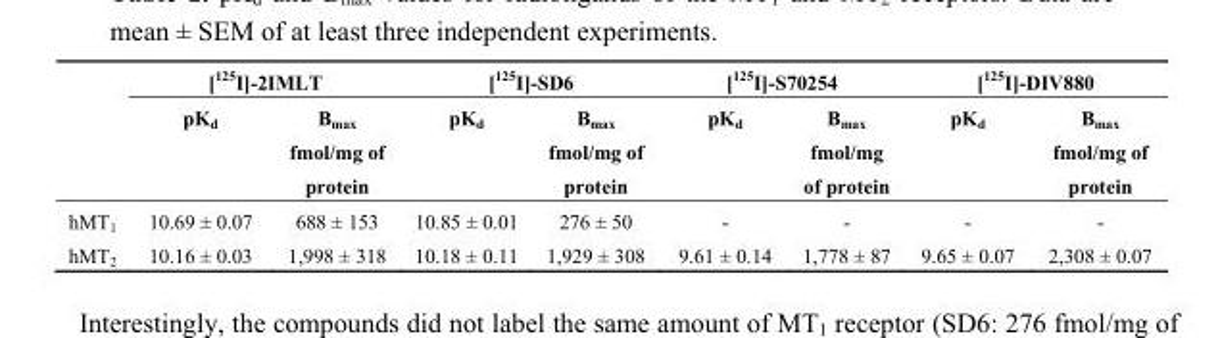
<table><thead><tr><td rowspan="2"></td><td colspan="2">[<sup>125</sup>I]-2IMLT</td><td colspan="2">[<sup>125</sup>I]-SD6</td><td colspan="2">[<sup>125</sup>I]-S70254</td><td colspan="2">[<sup>125</sup>I]-DIV880</td></tr><tr><td>pK<sub>d</sub></td><td>B<sub>max</sub> fmol/mg of protein</td><td>pK<sub>d</sub></td><td>B<sub>max</sub> fmol/mg of protein</td><td>pK<sub>d</sub></td><td>B<sub>max</sub> fmol/mg of protein</td><td>pK<sub>d</sub></td><td>B<sub>max</sub> fmol/mg of protein</td></tr></thead><tbody><tr><td>hMT<sub>1</sub></td><td>10.69 ± 0.07</td><td>688 ± 153</td><td>10.85 ± 0.01</td><td>276 ± 50</td><td>-</td><td>-</td><td>-</td><td>-</td></tr><tr><td>hMT<sub>2</sub></td><td>10.16 ± 0.03</td><td>1,998 ± 318</td><td>10.18 ± 0.11</td><td>1,929 ± 308</td><td>9.61 ± 0.14</td><td>1,778 ± 87</td><td>9.65 ± 0.07</td><td>2,308 ± 0.07</td></tr></tbody></table>